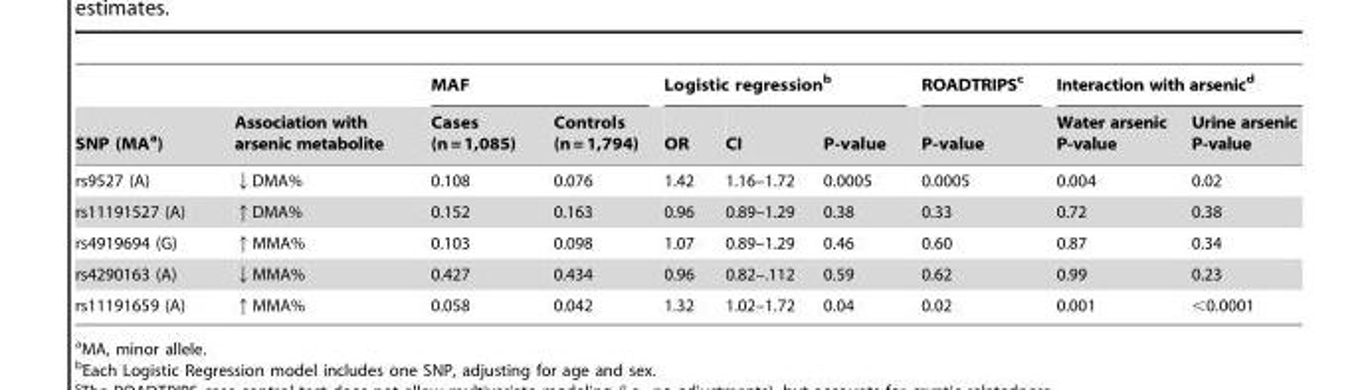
<table><thead><tr><td rowspan="2">SNP (MA<sup>a</sup>)</td><td rowspan="2">Association with arsenic metabolite</td><td colspan="2">MAF</td><td colspan="3">Logistic regression<sup>b</sup></td><td rowspan="2">ROADTRIPS<sup>c</sup> P-value</td><td colspan="2">Interaction with arsenic<sup>d</sup></td></tr><tr><td>Cases (n = 1,085)</td><td>Controls (n = 1,794)</td><td>OR</td><td>CI</td><td>P-value</td><td>Water arsenic P-value</td><td>Urine arsenic P-value</td></tr></thead><tbody><tr><td>rs9527 (A)</td><td>↓DMA%</td><td>0.108</td><td>0.076</td><td>1.42</td><td>1.16–1.72</td><td>0.0005</td><td>0.0005</td><td>0.004</td><td>0.02</td></tr><tr><td>rs11191527 (A)</td><td>↑DMA%</td><td>0.152</td><td>0.163</td><td>0.96</td><td>0.89–1.29</td><td>0.38</td><td>0.33</td><td>0.72</td><td>0.38</td></tr><tr><td>rs4919694 (G)</td><td>↑MMA%</td><td>0.103</td><td>0.098</td><td>1.07</td><td>0.89–1.29</td><td>0.46</td><td>0.60</td><td>0.87</td><td>0.34</td></tr><tr><td>rs4290163 (A)</td><td>↓MMA%</td><td>0.427</td><td>0.434</td><td>0.96</td><td>0.82–.112</td><td>0.59</td><td>0.62</td><td>0.99</td><td>0.23</td></tr><tr><td>rs11191659 (A)</td><td>↑MMA%</td><td>0.058</td><td>0.042</td><td>1.32</td><td>1.02–1.72</td><td>0.04</td><td>0.02</td><td>0.001</td><td>&lt;0.0001</td></tr></tbody></table>